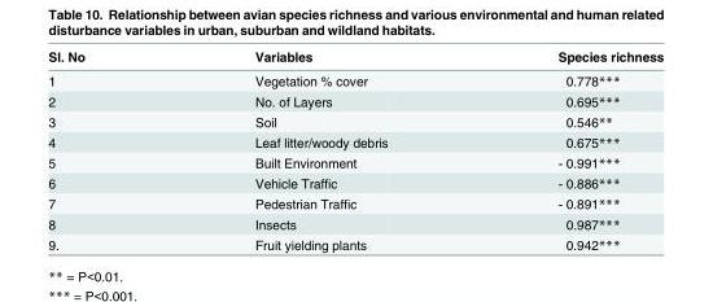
<table><thead><tr><td>Sl. No</td><td>Variables</td><td>Species richness</td></tr></thead><tbody><tr><td>1</td><td>Vegetation % cover</td><td>0.778***</td></tr><tr><td>2</td><td>No. of Layers</td><td>0.695***</td></tr><tr><td>3</td><td>Soil</td><td>0.546**</td></tr><tr><td>4</td><td>Leaf litter/woody debris</td><td>0.675***</td></tr><tr><td>5</td><td>Built Environment</td><td>- 0.991***</td></tr><tr><td>6</td><td>Vehicle Traffic</td><td>- 0.886***</td></tr><tr><td>7</td><td>Pedestrian Traffic</td><td>- 0.891***</td></tr><tr><td>8</td><td>Insects</td><td>0.987***</td></tr><tr><td>9.</td><td>Fruit yielding plants</td><td>0.942***</td></tr></tbody></table>